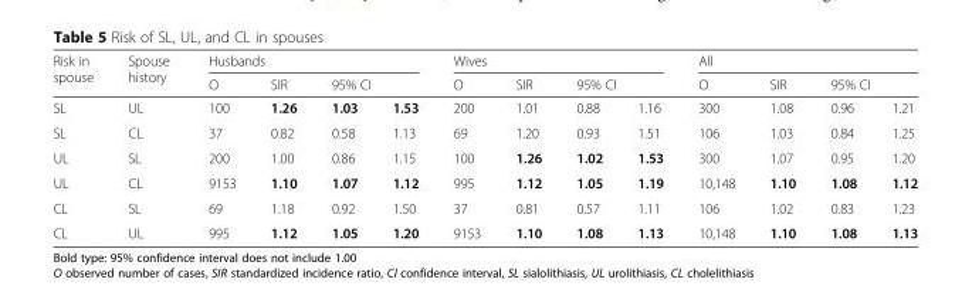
<table><thead><tr><td rowspan="3">Risk in spouse SL</td><td rowspan="3">Spouse history UL</td><td colspan="4">Husbands</td><td colspan="4">Wives</td><td colspan="4">All</td></tr><tr><td rowspan="2">O 100</td><td rowspan="2">SIR 1.26</td><td colspan="2">95% CI</td><td rowspan="2">O 200</td><td rowspan="2">SIR 1.01</td><td colspan="2">95% CI</td><td rowspan="2">O 300</td><td rowspan="2">SIR 1.08</td><td colspan="2">95% CI</td></tr><tr><td>1.03</td><td>1.53</td><td>0.88</td><td>1.16</td><td>0.96</td><td>1.21</td></tr></thead><tbody><tr><td>SL</td><td>CL</td><td>37</td><td>0.82</td><td>0.58</td><td>1.13</td><td>69</td><td>1.20</td><td>0.93</td><td>1.51</td><td>106</td><td>1.03</td><td>0.84</td><td>1.25</td></tr><tr><td>UL</td><td>SL</td><td>200</td><td>1.00</td><td>0.86</td><td>1.15</td><td>100</td><td>1.26</td><td>1.02</td><td>1.53</td><td>300</td><td>1.07</td><td>0.95</td><td>1.20</td></tr><tr><td>UL</td><td>CL</td><td>9153</td><td>1.10</td><td>1.07</td><td>1.12</td><td>995</td><td>1.12</td><td>1.05</td><td>1.19</td><td>10,148</td><td>1.10</td><td>1.08</td><td>1.12</td></tr><tr><td>CL</td><td>SL</td><td>69</td><td>1.18</td><td>0.92</td><td>1.50</td><td>37</td><td>0.81</td><td>0.57</td><td>1.11</td><td>106</td><td>1.02</td><td>0.83</td><td>1.23</td></tr><tr><td>CL</td><td>UL</td><td>995</td><td>1.12</td><td>1.05</td><td>1.20</td><td>9153</td><td>1.10</td><td>1.08</td><td>1.13</td><td>10,148</td><td>1.10</td><td>1.08</td><td>1.13</td></tr></tbody></table>